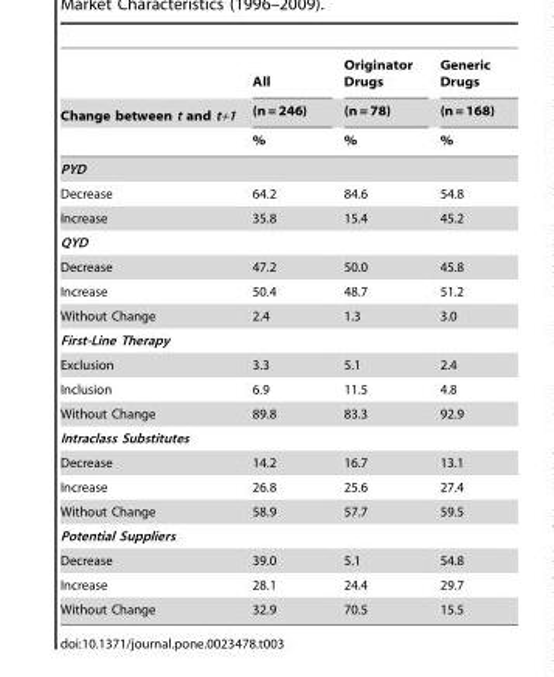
<table><thead><tr><td rowspan="3">Change between t and t+1</td><td rowspan="3">All (n = 246) %</td><td rowspan="3">Originator Drugs (n = 78) %</td><td rowspan="3">Generic Drugs (n = 168) %</td></tr><tr></tr><tr></tr></thead><tbody><tr><td colspan="4">PYD</td></tr><tr><td>Decrease</td><td>64.2</td><td>84.6</td><td>54.8</td></tr><tr><td>Increase</td><td>35.8</td><td>15.4</td><td>45.2</td></tr><tr><td colspan="4">QYD</td></tr><tr><td>Decrease</td><td>47.2</td><td>50.0</td><td>45.8</td></tr><tr><td>Increase</td><td>50.4</td><td>48.7</td><td>51.2</td></tr><tr><td>Without Change</td><td>2.4</td><td>1.3</td><td>3.0</td></tr><tr><td colspan="4">First-Line Therapy</td></tr><tr><td>Exclusion</td><td>3.3</td><td>5.1</td><td>2.4</td></tr><tr><td>Inclusion</td><td>6.9</td><td>11.5</td><td>4.8</td></tr><tr><td>Without Change</td><td>89.8</td><td>83.3</td><td>92.9</td></tr><tr><td colspan="4">Intraclass Substitutes</td></tr><tr><td>Decrease</td><td>14.2</td><td>16.7</td><td>13.1</td></tr><tr><td>Increase</td><td>26.8</td><td>25.6</td><td>27.4</td></tr><tr><td>Without Change</td><td>58.9</td><td>57.7</td><td>59.5</td></tr><tr><td colspan="4">Potential Suppliers</td></tr><tr><td>Decrease</td><td>39.0</td><td>5.1</td><td>54.8</td></tr><tr><td>Increase</td><td>28.1</td><td>24.4</td><td>29.7</td></tr><tr><td>Without Change</td><td>32.9</td><td>70.5</td><td>15.5</td></tr></tbody></table>